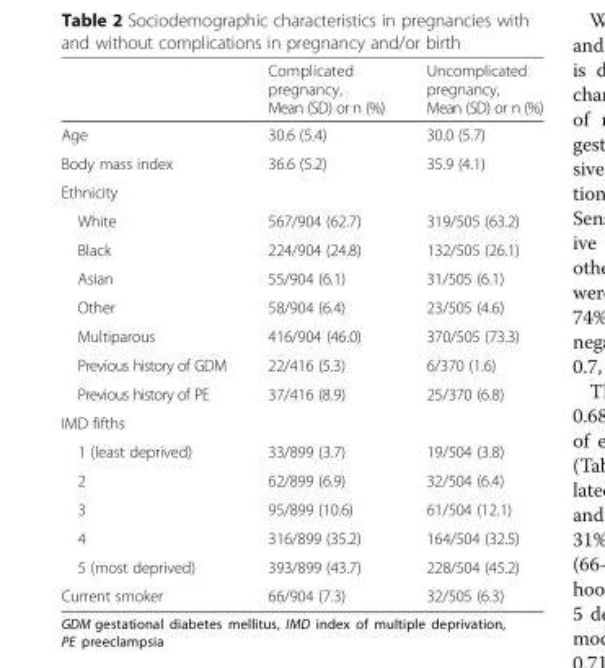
<table><thead><tr><td></td><td>Complicated pregnancy, Mean (SD) or n (%)</td><td>Uncomplicated pregnancy, Mean (SD) or n (%)</td></tr></thead><tbody><tr><td>Age</td><td>30.6 (5.4)</td><td>30.0 (5.7)</td></tr><tr><td>Body mass index</td><td>36.6 (5.2)</td><td>35.9 (4.1)</td></tr><tr><td colspan="3">Ethnicity</td></tr><tr><td>White</td><td>567/904 (62.7)</td><td>319/505 (63.2)</td></tr><tr><td>Black</td><td>224/904 (24.8)</td><td>132/505 (26.1)</td></tr><tr><td>Asian</td><td>55/904 (6.1)</td><td>31/505 (6.1)</td></tr><tr><td>Other</td><td>58/904 (6.4)</td><td>23/505 (4.6)</td></tr><tr><td>Multiparous</td><td>416/904 (46.0)</td><td>370/505 (73.3)</td></tr><tr><td>Previous history of GDM</td><td>22/416 (5.3)</td><td>6/370 (1.6)</td></tr><tr><td>Previous history of PE</td><td>37/416 (8.9)</td><td>25/370 (6.8)</td></tr><tr><td colspan="3">IMD fifths</td></tr><tr><td>1 (least deprived)</td><td>33/899 (3.7)</td><td>19/504 (3.8)</td></tr><tr><td>2</td><td>62/899 (6.9)</td><td>32/504 (6.4)</td></tr><tr><td>3</td><td>95/899 (10.6)</td><td>61/504 (12.1)</td></tr><tr><td>4</td><td>316/899 (35.2)</td><td>164/504 (32.5)</td></tr><tr><td>5 (most deprived)</td><td>393/899 (43.7)</td><td>228/504 (45.2)</td></tr><tr><td>Current smoker</td><td>66/904 (7.3)</td><td>32/505 (6.3)</td></tr></tbody></table>